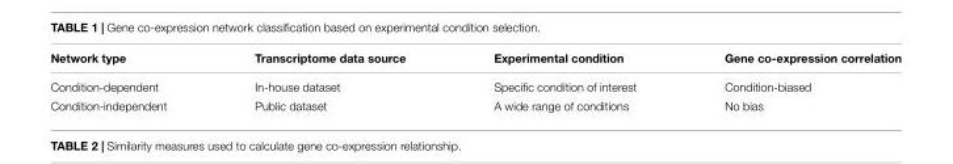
<table><thead><tr><td>Network type</td><td>Transcriptome data source</td><td>Experimental condition</td><td>Gene co-expression correlation</td></tr></thead><tbody><tr><td>Condition-dependent</td><td>In-house dataset</td><td>Specific condition of interest</td><td>Condition-biased</td></tr><tr><td>Condition-independent</td><td>Public dataset</td><td>A wide range of conditions</td><td>No bias</td></tr></tbody></table>